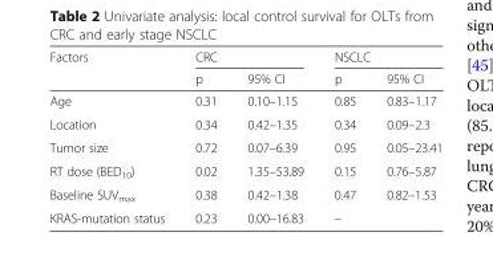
<table><thead><tr><td rowspan="2">Factors</td><td colspan="2">CRC</td><td colspan="2">NSCLC</td></tr><tr><td>p</td><td>95% CI</td><td>p</td><td>95% CI</td></tr></thead><tbody><tr><td>Age</td><td>0.31</td><td>0.10–1.15</td><td>0.85</td><td>0.83–1.17</td></tr><tr><td>Location</td><td>0.34</td><td>0.42–1.35</td><td>0.34</td><td>0.09–2.3</td></tr><tr><td>Tumor size</td><td>0.72</td><td>0.07–6.39</td><td>0.95</td><td>0.05–23.41</td></tr><tr><td>RT dose (BED<sub>10</sub>)</td><td>0.02</td><td>1.35–53.89</td><td>0.15</td><td>0.76–5.87</td></tr><tr><td>Baseline SUV<sub>max</sub></td><td>0.38</td><td>0.42–1.38</td><td>0.47</td><td>0.82–1.53</td></tr><tr><td>KRAS-mutation status</td><td>0.23</td><td>0.00–16.83</td><td>–</td><td></td></tr></tbody></table>